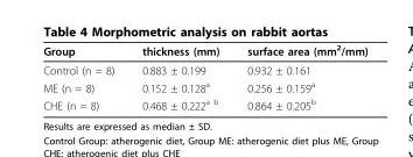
<table><thead><tr><td>Group</td><td>thickness (mm)</td><td>surface area (mm<sup>2</sup>/mm)</td></tr></thead><tbody><tr><td>Control (n = 8)</td><td>0.883 ± 0.199</td><td>0.932 ± 0.161</td></tr><tr><td>ME (n = 8)</td><td>0.152 ± 0.128<sup>a</sup></td><td>0.256 ± 0.159<sup>a</sup></td></tr><tr><td>CHE (n = 8)</td><td>0.468 ± 0.222<sup>a b</sup></td><td>0.864 ± 0.205<sup>b</sup></td></tr></tbody></table>